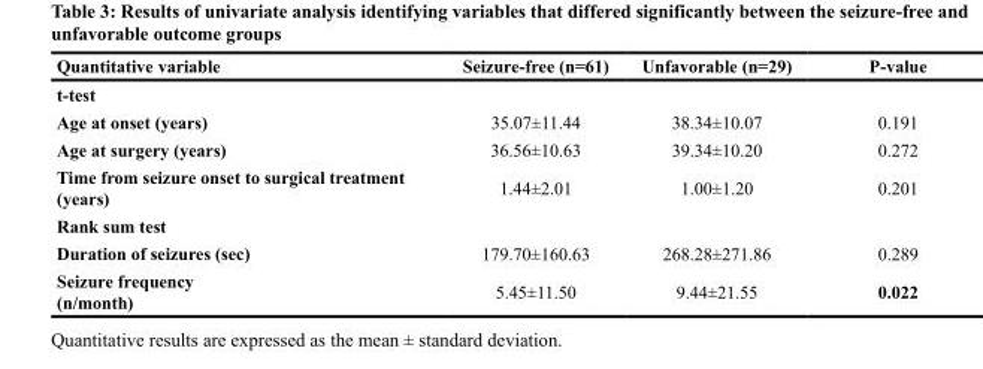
<table><thead><tr><td>Quantitative variable</td><td>Seizure-free (n=61)</td><td>Unfavorable (n=29)</td><td>P-value</td></tr></thead><tbody><tr><td colspan="4">t-test</td></tr><tr><td>Age at onset (years)</td><td>35.07±11.44</td><td>38.34±10.07</td><td>0.191</td></tr><tr><td>Age at surgery (years)</td><td>36.56±10.63</td><td>39.34±10.20</td><td>0.272</td></tr><tr><td>Time from seizure onset to surgical treatment (years)</td><td>1.44±2.01</td><td>1.00±1.20</td><td>0.201</td></tr><tr><td colspan="4">Rank sum test</td></tr><tr><td>Duration of seizures (sec)</td><td>179.70±160.63</td><td>268.28±271.86</td><td>0.289</td></tr><tr><td>Seizure frequency (n/month)</td><td>5.45±11.50</td><td>9.44±21.55</td><td>0.022</td></tr></tbody></table>